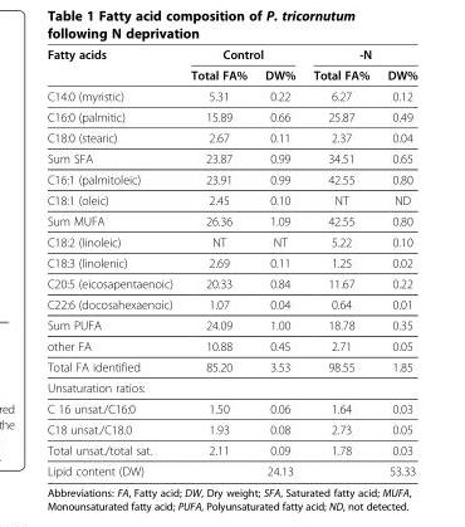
<table><thead><tr><td rowspan="2">Fatty acids</td><td colspan="2">Control</td><td colspan="2">-N</td></tr><tr><td>Total FA%</td><td>DW%</td><td>Total FA%</td><td>DW%</td></tr></thead><tbody><tr><td>C14:0 (myristic)</td><td>5.31</td><td>0.22</td><td>6.27</td><td>0.12</td></tr><tr><td>C16:0 (palmitic)</td><td>15.89</td><td>0.66</td><td>25.87</td><td>0.49</td></tr><tr><td>C18:0 (stearic)</td><td>2.67</td><td>0.11</td><td>2.37</td><td>0.04</td></tr><tr><td>Sum SFA</td><td>23.87</td><td>0.99</td><td>34.51</td><td>0.65</td></tr><tr><td>C16:1 (palmitoleic)</td><td>23.91</td><td>0.99</td><td>42.55</td><td>0.80</td></tr><tr><td>C18:1 (oleic)</td><td>2.45</td><td>0.10</td><td>NT</td><td>ND</td></tr><tr><td>Sum MUFA</td><td>26.36</td><td>1.09</td><td>42.55</td><td>0.80</td></tr><tr><td>C18:2 (linoleic)</td><td>NT</td><td>NT</td><td>5.22</td><td>0.10</td></tr><tr><td>C18:3 (linolenic)</td><td>2.69</td><td>0.11</td><td>1.25</td><td>0.02</td></tr><tr><td>C20:5 (eicosapentaenoic)</td><td>20.33</td><td>0.84</td><td>11.67</td><td>0.22</td></tr><tr><td>C22:6 (docosahexaenoic)</td><td>1.07</td><td>0.04</td><td>0.64</td><td>0.01</td></tr><tr><td>Sum PUFA</td><td>24.09</td><td>1.00</td><td>18.78</td><td>0.35</td></tr><tr><td>other FA</td><td>10.88</td><td>0.45</td><td>2.71</td><td>0.05</td></tr><tr><td>Total FA identified</td><td>85.20</td><td>3.53</td><td>98.55</td><td>1.85</td></tr><tr><td colspan="5">Unsaturation ratios:</td></tr><tr><td>C 16 unsat./C16:0</td><td>1.50</td><td>0.06</td><td>1.64</td><td>0.03</td></tr><tr><td>C18 unsat./C18.0</td><td>1.93</td><td>0.08</td><td>2.73</td><td>0.05</td></tr><tr><td>Total unsat./total sat.</td><td>2.11</td><td>0.09</td><td>1.78</td><td>0.03</td></tr><tr><td>Lipid content (DW)</td><td></td><td>24.13</td><td></td><td>53.33</td></tr></tbody></table>